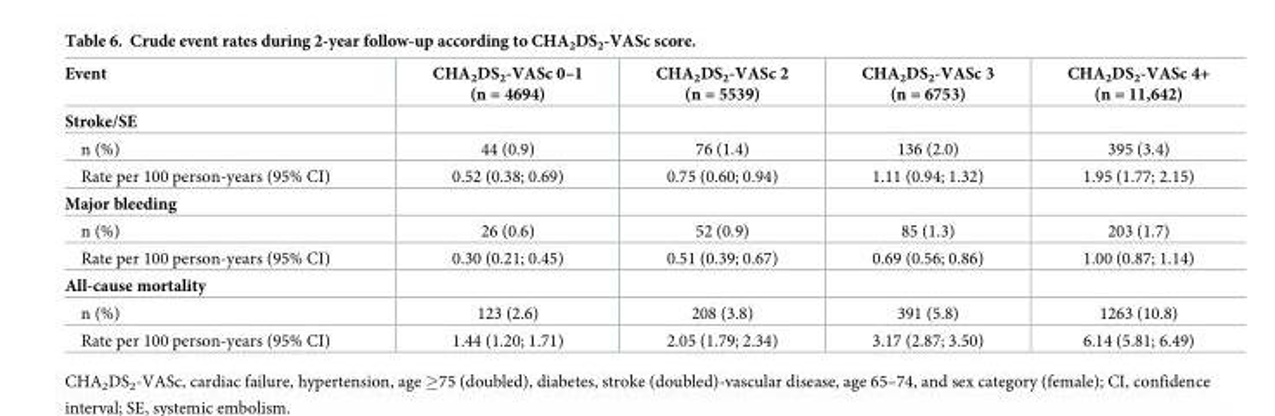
<table><thead><tr><td>Event</td><td>CHA<sub>2</sub>DS<sub>2</sub>-VASc 0–1 (n = 4694)</td><td>CHA<sub>2</sub>DS<sub>2</sub>-VASc 2 (n = 5539)</td><td>CHA<sub>2</sub>DS<sub>2</sub>-VASc 3 (n = 6753)</td><td>CHA<sub>2</sub>DS<sub>2</sub>-VASc 4+ (n = 11,642)</td></tr></thead><tbody><tr><td colspan="5">Stroke/SE</td></tr><tr><td>n (%)</td><td>44 (0.9)</td><td>76 (1.4)</td><td>136 (2.0)</td><td>395 (3.4)</td></tr><tr><td>Rate per 100 person-years (95% CI)</td><td>0.52 (0.38; 0.69)</td><td>0.75 (0.60; 0.94)</td><td>1.11 (0.94; 1.32)</td><td>1.95 (1.77; 2.15)</td></tr><tr><td colspan="5">Major bleeding</td></tr><tr><td>n (%)</td><td>26 (0.6)</td><td>52 (0.9)</td><td>85 (1.3)</td><td>203 (1.7)</td></tr><tr><td>Rate per 100 person-years (95% CI)</td><td>0.30 (0.21; 0.45)</td><td>0.51 (0.39; 0.67)</td><td>0.69 (0.56; 0.86)</td><td>1.00 (0.87; 1.14)</td></tr><tr><td colspan="5">All-cause mortality</td></tr><tr><td>n (%)</td><td>123 (2.6)</td><td>208 (3.8)</td><td>391 (5.8)</td><td>1263 (10.8)</td></tr><tr><td>Rate per 100 person-years (95% CI)</td><td>1.44 (1.20; 1.71)</td><td>2.05 (1.79; 2.34)</td><td>3.17 (2.87; 3.50)</td><td>6.14 (5.81; 6.49)</td></tr></tbody></table>